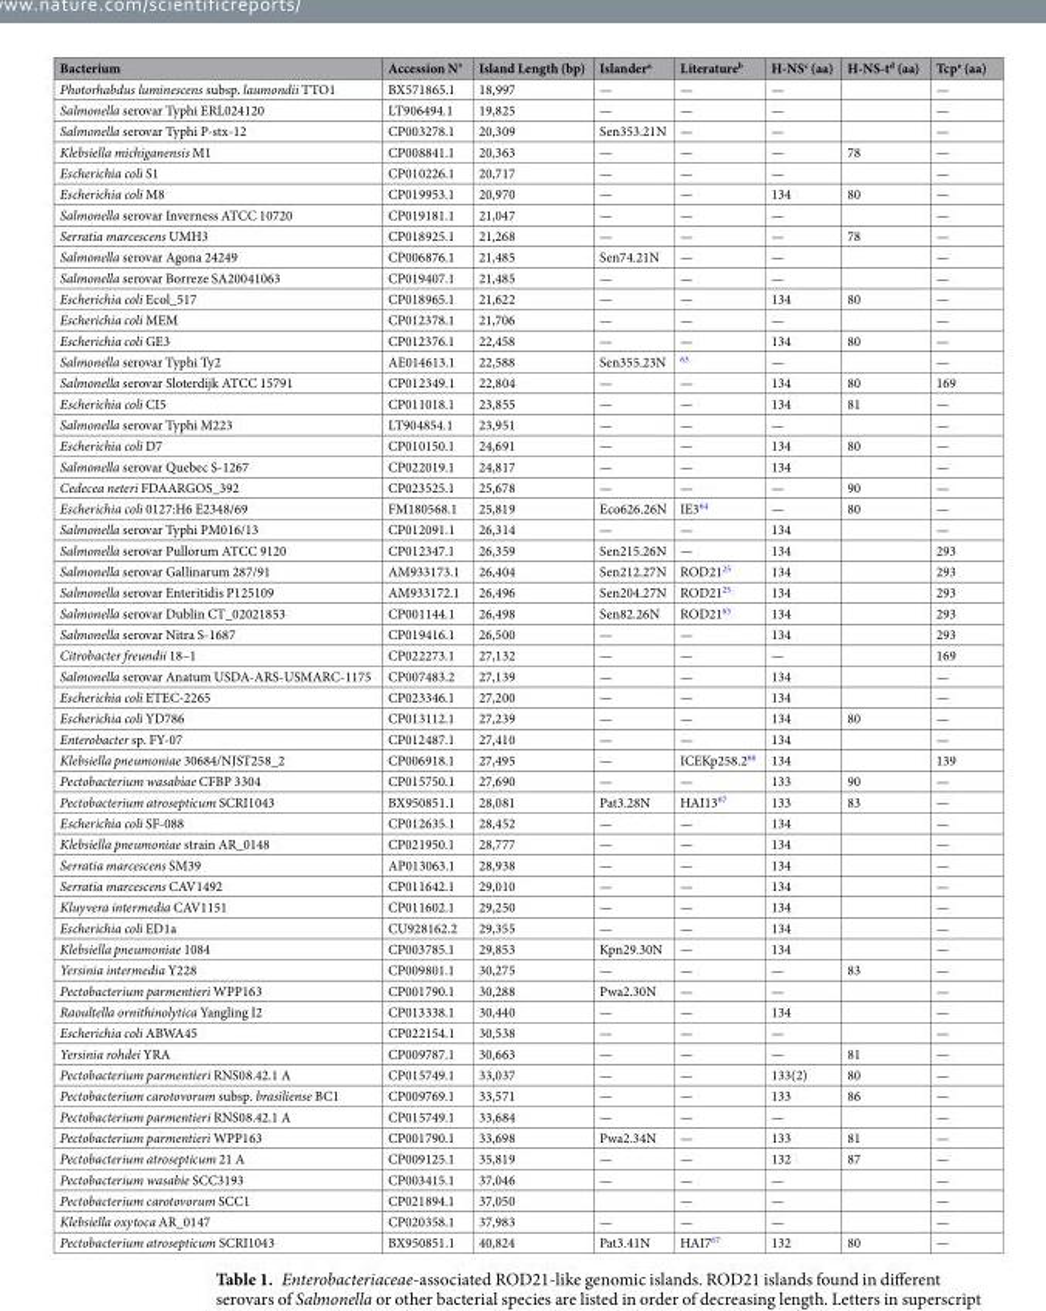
<table><thead><tr><td>Bacterium</td><td>Accession N°</td><td>Island Length (bp)</td><td>Islander<sup>a</sup></td><td>Literature<sup>b</sup></td><td>H-NS<sup>c</sup> (aa)</td><td>H-NS-t<sup>d</sup> (aa)</td><td>Tcp<sup>e</sup> (aa)</td></tr></thead><tbody><tr><td>Photorhabdus luminescens subsp. laumondii TTO1</td><td>BX571865.1</td><td>18,997</td><td>—</td><td>—</td><td>—</td><td></td><td>—</td></tr><tr><td>Salmonella serovar Typhi ERL024120</td><td>LT906494.1</td><td>19,825</td><td>—</td><td>—</td><td>—</td><td></td><td>—</td></tr><tr><td>Salmonella serovar Typhi P-stx-12</td><td>CP003278.1</td><td>20,309</td><td>Sen353.21N</td><td>—</td><td>—</td><td></td><td>—</td></tr><tr><td>Klebsiella michiganensis M1</td><td>CP008841.1</td><td>20,363</td><td>—</td><td>—</td><td>—</td><td>78</td><td>—</td></tr><tr><td>Escherichia coli S1</td><td>CP010226.1</td><td>20,717</td><td>—</td><td>—</td><td>—</td><td></td><td>—</td></tr><tr><td>Escherichia coli M8</td><td>CP019953.1</td><td>20,970</td><td>—</td><td>—</td><td>134</td><td>80</td><td>—</td></tr><tr><td>Salmonella serovar Inverness ATCC 10720</td><td>CP019181.1</td><td>21,047</td><td>—</td><td>—</td><td>—</td><td></td><td>—</td></tr><tr><td>Serratia marcescens UMH3</td><td>CP018925.1</td><td>21,268</td><td>—</td><td>—</td><td>—</td><td>78</td><td>—</td></tr><tr><td>Salmonella serovar Agona 24249</td><td>CP006876.1</td><td>21,485</td><td>Sen74.21N</td><td>—</td><td>—</td><td></td><td>—</td></tr><tr><td>Salmonella serovar Borreze SA20041063</td><td>CP019407.1</td><td>21,485</td><td>—</td><td>—</td><td>—</td><td></td><td>—</td></tr><tr><td>Escherichia coli Ecol_517</td><td>CP018965.1</td><td>21,622</td><td>—</td><td>—</td><td>134</td><td>80</td><td>—</td></tr><tr><td>Escherichia coli MEM</td><td>CP012378.1</td><td>21,706</td><td>—</td><td>—</td><td>—</td><td></td><td>—</td></tr><tr><td>Escherichia coli GE3</td><td>CP012376.1</td><td>22,458</td><td>—</td><td>—</td><td>134</td><td>80</td><td>—</td></tr><tr><td>Salmonella serovar Typhi Ty2</td><td>AE014613.1</td><td>22,588</td><td>Sen355.23N</td><td><sup>63</sup></td><td>—</td><td></td><td>—</td></tr><tr><td>Salmonella serovar Sloterdijk ATCC 15791</td><td>CP012349.1</td><td>22,804</td><td>—</td><td>—</td><td>134</td><td>80</td><td>169</td></tr><tr><td>Escherichia coli CI5</td><td>CP011018.1</td><td>23,855</td><td>—</td><td>—</td><td>134</td><td>81</td><td>—</td></tr><tr><td>Salmonella serovar Typhi M223</td><td>LT904854.1</td><td>23,951</td><td>—</td><td>—</td><td>—</td><td></td><td>—</td></tr><tr><td>Escherichia coli D7</td><td>CP010150.1</td><td>24,691</td><td>—</td><td>—</td><td>134</td><td>80</td><td>—</td></tr><tr><td>Salmonella serovar Quebec S-1267</td><td>CP022019.1</td><td>24,817</td><td>—</td><td>—</td><td>134</td><td></td><td>—</td></tr><tr><td>Cedecea neteri FDAARGOS_392</td><td>CP023525.1</td><td>25,678</td><td>—</td><td>—</td><td>—</td><td>90</td><td>—</td></tr><tr><td>Escherichia coli 0127:H6 E2348/69</td><td>FM180568.1</td><td>25,819</td><td>Eco626.26N</td><td>IE3<sup>64</sup></td><td>—</td><td>80</td><td>—</td></tr><tr><td>Salmonella serovar Typhi PM016/13</td><td>CP012091.1</td><td>26,314</td><td>—</td><td>—</td><td>134</td><td></td><td>—</td></tr><tr><td>Salmonella serovar Pullorum ATCC 9120</td><td>CP012347.1</td><td>26,359</td><td>Sen215.26N</td><td>—</td><td>134</td><td></td><td>293</td></tr><tr><td>Salmonella serovar Gallinarum 287/91</td><td>AM933173.1</td><td>26,404</td><td>Sen212.27N</td><td>ROD21<sup>25</sup></td><td>134</td><td></td><td>293</td></tr><tr><td>Salmonella serovar Enteritidis P125109</td><td>AM933172.1</td><td>26,496</td><td>Sen204.27N</td><td>ROD21<sup>25</sup></td><td>134</td><td></td><td>293</td></tr><tr><td>Salmonella serovar Dublin CT_02021853</td><td>CP001144.1</td><td>26,498</td><td>Sen82.26N</td><td>ROD21<sup>65</sup></td><td>134</td><td></td><td>293</td></tr><tr><td>Salmonella serovar Nitra S-1687</td><td>CP019416.1</td><td>26,500</td><td>—</td><td>—</td><td>134</td><td></td><td>293</td></tr><tr><td>Citrobacter freundii 18–1</td><td>CP022273.1</td><td>27,132</td><td>—</td><td>—</td><td>—</td><td></td><td>169</td></tr><tr><td>Salmonella serovar Anatum USDA-ARS-USMARC-1175</td><td>CP007483.2</td><td>27,139</td><td>—</td><td>—</td><td>134</td><td></td><td>—</td></tr><tr><td>Escherichia coli ETEC-2265</td><td>CP023346.1</td><td>27,200</td><td>—</td><td>—</td><td>134</td><td></td><td>—</td></tr><tr><td>Escherichia coli YD786</td><td>CP013112.1</td><td>27,239</td><td>—</td><td>—</td><td>134</td><td>80</td><td>—</td></tr><tr><td>Enterobacter sp. FY-07</td><td>CP012487.1</td><td>27,410</td><td>—</td><td>—</td><td>134</td><td></td><td>—</td></tr><tr><td>Klebsiella pneumoniae 30684/NJST258_2</td><td>CP006918.1</td><td>27,495</td><td>—</td><td>ICEKp258.2<sup>66</sup></td><td>134</td><td></td><td>139</td></tr><tr><td>Pectobacterium wasabiae CFBP 3304</td><td>CP015750.1</td><td>27,690</td><td>—</td><td>—</td><td>133</td><td>90</td><td>—</td></tr><tr><td>Pectobacterium atrosepticum SCRI1043</td><td>BX950851.1</td><td>28,081</td><td>Pat3.28N</td><td>HAI13<sup>67</sup></td><td>133</td><td>83</td><td>—</td></tr><tr><td>Escherichia coli SF-088</td><td>CP012635.1</td><td>28,452</td><td>—</td><td>—</td><td>134</td><td></td><td>—</td></tr><tr><td>Klebsiella pneumoniae strain AR_0148</td><td>CP021950.1</td><td>28,777</td><td>—</td><td>—</td><td>134</td><td></td><td>—</td></tr><tr><td>Serratia marcescens SM39</td><td>AP013063.1</td><td>28,938</td><td>—</td><td>—</td><td>134</td><td></td><td>—</td></tr><tr><td>Serratia marcescens CAV1492</td><td>CP011642.1</td><td>29,010</td><td>—</td><td>—</td><td>134</td><td></td><td>—</td></tr><tr><td>Kluyvera intermedia CAV1151</td><td>CP011602.1</td><td>29,250</td><td>—</td><td>—</td><td>134</td><td></td><td>—</td></tr><tr><td>Escherichia coli ED1a</td><td>CU928162.2</td><td>29,355</td><td>—</td><td>—</td><td>134</td><td></td><td>—</td></tr><tr><td>Klebsiella pneumoniae 1084</td><td>CP003785.1</td><td>29,853</td><td>Kpn29.30N</td><td>—</td><td>134</td><td></td><td>—</td></tr><tr><td>Yersinia intermedia Y228</td><td>CP009801.1</td><td>30,275</td><td>—</td><td>—</td><td>—</td><td>83</td><td>—</td></tr><tr><td>Pectobacterium parmentieri WPP163</td><td>CP001790.1</td><td>30,288</td><td>Pwa2.30N</td><td>—</td><td>—</td><td></td><td>—</td></tr><tr><td>Raoultella ornithinolytica Yangling I2</td><td>CP013338.1</td><td>30,440</td><td>—</td><td>—</td><td>134</td><td></td><td>—</td></tr><tr><td>Escherichia coli ABWA45</td><td>CP022154.1</td><td>30,538</td><td>—</td><td>—</td><td>—</td><td></td><td>—</td></tr><tr><td>Yersinia rohdei YRA</td><td>CP009787.1</td><td>30,663</td><td>—</td><td>—</td><td>—</td><td>81</td><td>—</td></tr><tr><td>Pectobacterium parmentieri RNS08.42.1 A</td><td>CP015749.1</td><td>33,037</td><td>—</td><td>—</td><td>133(2)</td><td>80</td><td>—</td></tr><tr><td>Pectobacterium carotovorum subsp. brasiliense BC1</td><td>CP009769.1</td><td>33,571</td><td>—</td><td>—</td><td>133</td><td>86</td><td>—</td></tr><tr><td>Pectobacterium parmentieri RNS08.42.1 A</td><td>CP015749.1</td><td>33,684</td><td>—</td><td>—</td><td>—</td><td></td><td>—</td></tr><tr><td>Pectobacterium parmentieri WPP163</td><td>CP001790.1</td><td>33,698</td><td>Pwa2.34N</td><td>—</td><td>133</td><td>81</td><td>—</td></tr><tr><td>Pectobacterium atrosepticum 21 A</td><td>CP009125.1</td><td>35,819</td><td>—</td><td>—</td><td>132</td><td>87</td><td>—</td></tr><tr><td>Pectobacterium wasabie SCC3193</td><td>CP003415.1</td><td>37,046</td><td>—</td><td>—</td><td>—</td><td></td><td>—</td></tr><tr><td>Pectobacterium carotovorum SCC1</td><td>CP021894.1</td><td>37,050</td><td></td><td>—</td><td>—</td><td></td><td>—</td></tr><tr><td>Klebsiella oxytoca AR_0147</td><td>CP020358.1</td><td>37,983</td><td>—</td><td>—</td><td>—</td><td></td><td>—</td></tr><tr><td>Pectobacterium atrosepticum SCRI1043</td><td>BX950851.1</td><td>40,824</td><td>Pat3.41N</td><td>HAI7<sup>67</sup></td><td>132</td><td>80</td><td>—</td></tr></tbody></table>